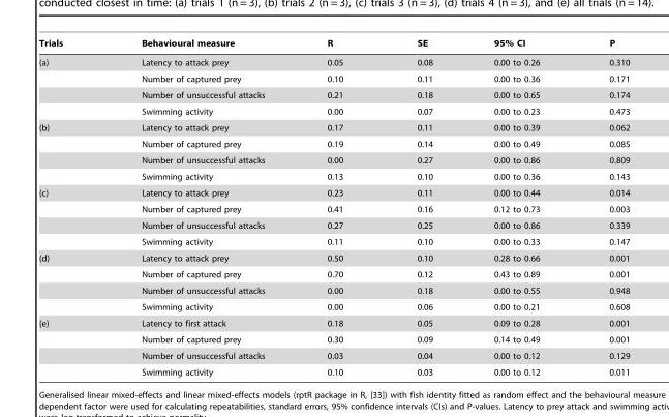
<table><thead><tr><td>Trials</td><td>Behavioural measure</td><td>R</td><td>SE</td><td>95% CI</td><td>P</td></tr></thead><tbody><tr><td rowspan="4">(a)</td><td>Latency to attack prey</td><td>0.05</td><td>0.08</td><td>0.00 to 0.26</td><td>0.310</td></tr><tr><td>Number of captured prey</td><td>0.10</td><td>0.11</td><td>0.00 to 0.36</td><td>0.171</td></tr><tr><td>Number of unsuccessful attacks</td><td>0.21</td><td>0.18</td><td>0.00 to 0.65</td><td>0.174</td></tr><tr><td>Swimming activity</td><td>0.00</td><td>0.07</td><td>0.00 to 0.23</td><td>0.473</td></tr><tr><td rowspan="4">(b)</td><td>Latency to attack prey</td><td>0.17</td><td>0.11</td><td>0.00 to 0.39</td><td>0.062</td></tr><tr><td>Number of captured prey</td><td>0.19</td><td>0.14</td><td>0.00 to 0.49</td><td>0.085</td></tr><tr><td>Number of unsuccessful attacks</td><td>0.00</td><td>0.27</td><td>0.00 to 0.86</td><td>0.809</td></tr><tr><td>Swimming activity</td><td>0.13</td><td>0.10</td><td>0.00 to 0.36</td><td>0.143</td></tr><tr><td rowspan="4">(c)</td><td>Latency to attack prey</td><td>0.23</td><td>0.11</td><td>0.00 to 0.44</td><td>0.014</td></tr><tr><td>Number of captured prey</td><td>0.41</td><td>0.16</td><td>0.12 to 0.73</td><td>0.003</td></tr><tr><td>Number of unsuccessful attacks</td><td>0.27</td><td>0.25</td><td>0.00 to 0.86</td><td>0.339</td></tr><tr><td>Swimming activity</td><td>0.11</td><td>0.10</td><td>0.00 to 0.33</td><td>0.147</td></tr><tr><td rowspan="4">(d)</td><td>Latency to attack prey</td><td>0.50</td><td>0.10</td><td>0.28 to 0.66</td><td>0.001</td></tr><tr><td>Number of captured prey</td><td>0.70</td><td>0.12</td><td>0.43 to 0.89</td><td>0.001</td></tr><tr><td>Number of unsuccessful attacks</td><td>0.00</td><td>0.18</td><td>0.00 to 0.55</td><td>0.948</td></tr><tr><td>Swimming activity</td><td>0.00</td><td>0.06</td><td>0.00 to 0.21</td><td>0.608</td></tr><tr><td rowspan="4">(e)</td><td>Latency to first attack</td><td>0.18</td><td>0.05</td><td>0.09 to 0.28</td><td>0.001</td></tr><tr><td>Number of captured prey</td><td>0.30</td><td>0.09</td><td>0.14 to 0.49</td><td>0.001</td></tr><tr><td>Number of unsuccessful attacks</td><td>0.03</td><td>0.04</td><td>0.00 to 0.12</td><td>0.129</td></tr><tr><td>Swimming activity</td><td>0.10</td><td>0.03</td><td>0.00 to 0.12</td><td>0.011</td></tr></tbody></table>